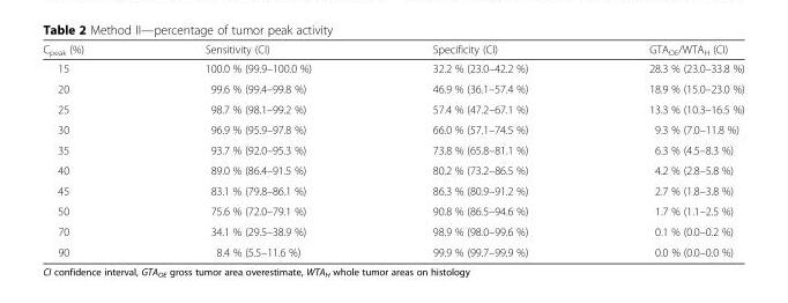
<table><thead><tr><td>C<sub>peak</sub> (%)</td><td>Sensitivity (CI)</td><td>Specificity (CI)</td><td>GTA<sub>OE</sub>/WTA<sub>H</sub> (CI)</td></tr></thead><tbody><tr><td>15</td><td>100.0 % (99.9–100.0 %)</td><td>32.2 % (23.0–42.2 %)</td><td>28.3 % (23.0–33.8 %)</td></tr><tr><td>20</td><td>99.6 % (99.4–99.8 %)</td><td>46.9 % (36.1–57.4 %)</td><td>18.9 % (15.0–23.0 %)</td></tr><tr><td>25</td><td>98.7 % (98.1–99.2 %)</td><td>57.4 % (47.2–67.1 %)</td><td>13.3 % (10.3–16.5 %)</td></tr><tr><td>30</td><td>96.9 % (95.9–97.8 %)</td><td>66.0 % (57.1–74.5 %)</td><td>9.3 % (7.0–11.8 %)</td></tr><tr><td>35</td><td>93.7 % (92.0–95.3 %)</td><td>73.8 % (65.8–81.1 %)</td><td>6.3 % (4.5–8.3 %)</td></tr><tr><td>40</td><td>89.0 % (86.4–91.5 %)</td><td>80.2 % (73.2–86.5 %)</td><td>4.2 % (2.8–5.8 %)</td></tr><tr><td>45</td><td>83.1 % (79.8–86.1 %)</td><td>86.3 % (80.9–91.2 %)</td><td>2.7 % (1.8–3.8 %)</td></tr><tr><td>50</td><td>75.6 % (72.0–79.1 %)</td><td>90.8 % (86.5–94.6 %)</td><td>1.7 % (1.1–2.5 %)</td></tr><tr><td>70</td><td>34.1 % (29.5–38.9 %)</td><td>98.9 % (98.0–99.6 %)</td><td>0.1 % (0.0–0.2 %)</td></tr><tr><td>90</td><td>8.4 % (5.5–11.6 %)</td><td>99.9 % (99.7–99.9 %)</td><td>0.0 % (0.0–0.0 %)</td></tr></tbody></table>